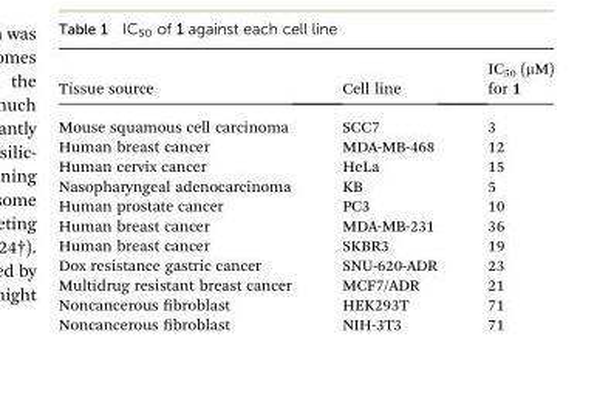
<table><thead><tr><td>Tissue source</td><td>Cell line</td><td>IC<sub>50</sub> (μM) for 1</td></tr></thead><tbody><tr><td>Mouse squamous cell carcinoma</td><td>SCC7</td><td>3</td></tr><tr><td>Human breast cancer</td><td>MDA-MB-468</td><td>12</td></tr><tr><td>Human cervix cancer</td><td>HeLa</td><td>15</td></tr><tr><td>Nasopharyngeal adenocarcinoma</td><td>KB</td><td>5</td></tr><tr><td>Human prostate cancer</td><td>PC3</td><td>10</td></tr><tr><td>Human breast cancer</td><td>MDA-MB-231</td><td>36</td></tr><tr><td>Human breast cancer</td><td>SKBR3</td><td>19</td></tr><tr><td>Dox resistance gastric cancer</td><td>SNU-620-ADR</td><td>23</td></tr><tr><td>Multidrug resistant breast cancer</td><td>MCF7/ADR</td><td>21</td></tr><tr><td>Noncancerous broblast</td><td>HEK293T</td><td>71</td></tr><tr><td>Noncancerous broblast</td><td>NIH-3T3</td><td>71</td></tr></tbody></table>